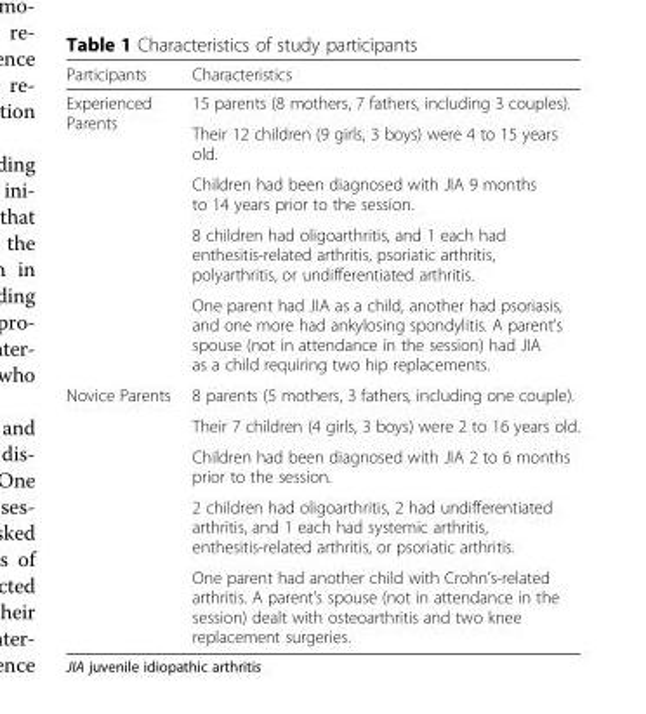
<table><thead><tr><td>Participants</td><td>Characteristics</td></tr></thead><tbody><tr><td rowspan="5">Experienced Parents</td><td>15 parents (8 mothers, 7 fathers, including 3 couples).</td></tr><tr><td>Their 12 children (9 girls, 3 boys) were 4 to 15 years old.</td></tr><tr><td>Children had been diagnosed with JIA 9 months to 14 years prior to the session.</td></tr><tr><td>8 children had oligoarthritis, and 1 each had enthesitis-related arthritis, psoriatic arthritis, polyarthritis, or undifferentiated arthritis.</td></tr><tr><td>One parent had JIA as a child, another had psoriasis, and one more had ankylosing spondylitis. A parent’s spouse (not in attendance in the session) had JIA as a child requiring two hip replacements.</td></tr><tr><td rowspan="5">Novice Parents</td><td>8 parents (5 mothers, 3 fathers, including one couple).</td></tr><tr><td>Their 7 children (4 girls, 3 boys) were 2 to 16 years old.</td></tr><tr><td>Children had been diagnosed with JIA 2 to 6 months prior to the session.</td></tr><tr><td>2 children had oligoarthritis, 2 had undifferentiated arthritis, and 1 each had systemic arthritis, enthesitis-related arthritis, or psoriatic arthritis.</td></tr><tr><td>One parent had another child with Crohn’s-related arthritis. A parent’s spouse (not in attendance in the session) dealt with osteoarthritis and two knee replacement surgeries.</td></tr></tbody></table>